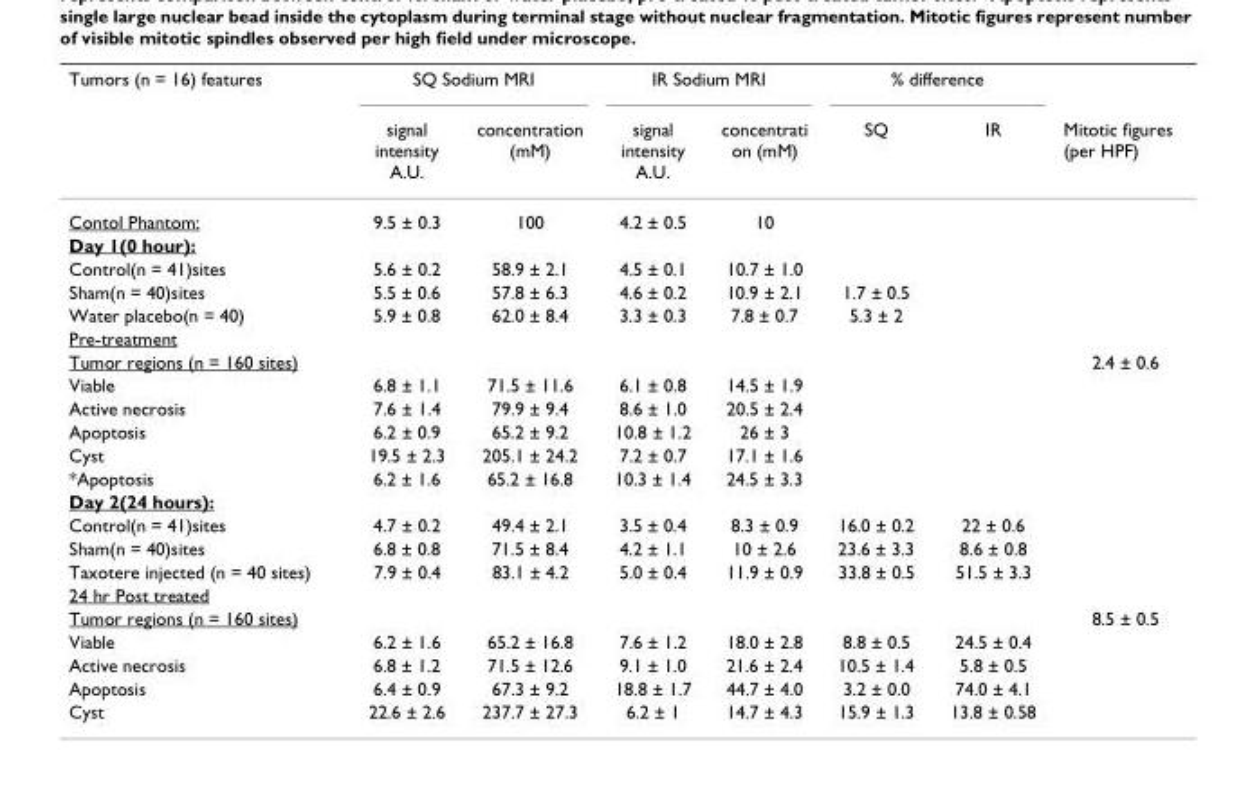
<table><thead><tr><td rowspan="2">Tumors (n = 16) features</td><td colspan="2">SQ Sodium MRI</td><td colspan="2">IR Sodium MRI</td><td colspan="2">% difference</td><td rowspan="2">Mitotic figures (per HPF)</td></tr><tr><td>signal intensity A.U.</td><td>concentration (mM)</td><td>signal intensity A.U.</td><td>concentrati on (mM)</td><td>SQ</td><td>IR</td></tr></thead><tbody><tr><td>Contol Phantom:</td><td>9.5 ± 0.3</td><td>100</td><td>4.2 ± 0.5</td><td>10</td><td></td><td></td><td></td></tr><tr><td colspan="8">Day 1(0 hour):</td></tr><tr><td>Control(n = 41)sites</td><td>5.6 ± 0.2</td><td>58.9 ± 2.1</td><td>4.5 ± 0.1</td><td>10.7 ± 1.0</td><td></td><td></td><td></td></tr><tr><td>Sham(n = 40)sites</td><td>5.5 ± 0.6</td><td>57.8 ± 6.3</td><td>4.6 ± 0.2</td><td>10.9 ± 2.1</td><td>1.7 ± 0.5</td><td></td><td></td></tr><tr><td>Water placebo(n = 40)</td><td>5.9 ± 0.8</td><td>62.0 ± 8.4</td><td>3.3 ± 0.3</td><td>7.8 ± 0.7</td><td>5.3 ± 2</td><td></td><td></td></tr><tr><td colspan="8">Pre-treatment</td></tr><tr><td>Tumor regions (n = 160 sites)</td><td></td><td></td><td></td><td></td><td></td><td></td><td>2.4 ± 0.6</td></tr><tr><td>Viable</td><td>6.8 ± 1.1</td><td>71.5 ± 11.6</td><td>6.1 ± 0.8</td><td>14.5 ± 1.9</td><td></td><td></td><td></td></tr><tr><td>Active necrosis</td><td>7.6 ± 1.4</td><td>79.9 ± 9.4</td><td>8.6 ± 1.0</td><td>20.5 ± 2.4</td><td></td><td></td><td></td></tr><tr><td>Apoptosis</td><td>6.2 ± 0.9</td><td>65.2 ± 9.2</td><td>10.8 ± 1.2</td><td>26 ± 3</td><td></td><td></td><td></td></tr><tr><td>Cyst</td><td>19.5 ± 2.3</td><td>205.1 ± 24.2</td><td>7.2 ± 0.7</td><td>17.1 ± 1.6</td><td></td><td></td><td></td></tr><tr><td>*Apoptosis</td><td>6.2 ± 1.6</td><td>65.2 ± 16.8</td><td>10.3 ± 1.4</td><td>24.5 ± 3.3</td><td></td><td></td><td></td></tr><tr><td colspan="8">Day 2(24 hours):</td></tr><tr><td>Control(n = 41)sites</td><td>4.7 ± 0.2</td><td>49.4 ± 2.1</td><td>3.5 ± 0.4</td><td>8.3 ± 0.9</td><td>16.0 ± 0.2</td><td>22 ± 0.6</td><td></td></tr><tr><td>Sham(n = 40)sites</td><td>6.8 ± 0.8</td><td>71.5 ± 8.4</td><td>4.2 ± 1.1</td><td>10 ± 2.6</td><td>23.6 ± 3.3</td><td>8.6 ± 0.8</td><td></td></tr><tr><td>Taxotere injected (n = 40 sites)</td><td>7.9 ± 0.4</td><td>83.1 ± 4.2</td><td>5.0 ± 0.4</td><td>11.9 ± 0.9</td><td>33.8 ± 0.5</td><td>51.5 ± 3.3</td><td></td></tr><tr><td colspan="8">24 hr Post treated</td></tr><tr><td>Tumor regions (n = 160 sites)</td><td></td><td></td><td></td><td></td><td></td><td></td><td>8.5 ± 0.5</td></tr><tr><td>Viable</td><td>6.2 ± 1.6</td><td>65.2 ± 16.8</td><td>7.6 ± 1.2</td><td>18.0 ± 2.8</td><td>8.8 ± 0.5</td><td>24.5 ± 0.4</td><td></td></tr><tr><td>Active necrosis</td><td>6.8 ± 1.2</td><td>71.5 ± 12.6</td><td>9.1 ± 1.0</td><td>21.6 ± 2.4</td><td>10.5 ± 1.4</td><td>5.8 ± 0.5</td><td></td></tr><tr><td>Apoptosis</td><td>6.4 ± 0.9</td><td>67.3 ± 9.2</td><td>18.8 ± 1.7</td><td>44.7 ± 4.0</td><td>3.2 ± 0.0</td><td>74.0 ± 4.1</td><td></td></tr><tr><td>Cyst</td><td>22.6 ± 2.6</td><td>237.7 ± 27.3</td><td>6.2 ± 1</td><td>14.7 ± 4.3</td><td>15.9 ± 1.3</td><td>13.8 ± 0.58</td><td></td></tr></tbody></table>